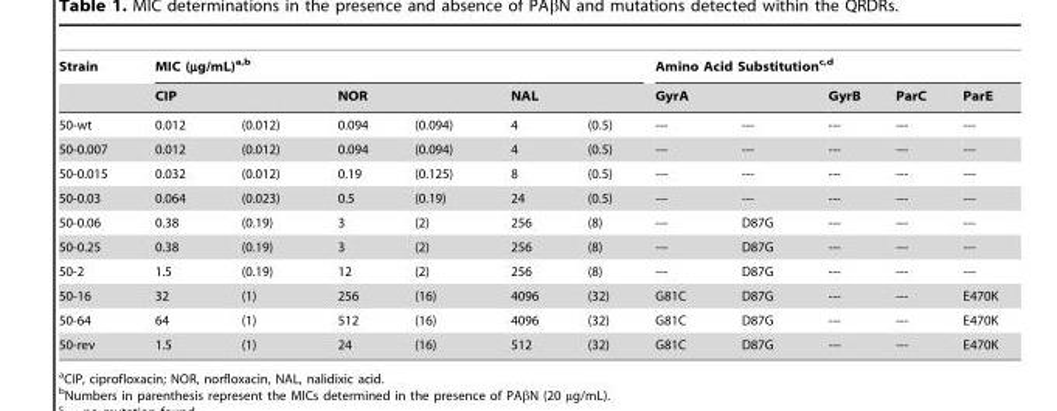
<table><thead><tr><td rowspan="3">Strain 50-wt</td><td colspan="6">MIC (µg/mL)a,b</td><td colspan="5">Amino Acid Substitutionc,d</td></tr><tr><td colspan="2">CIP</td><td colspan="2">NOR</td><td colspan="2">NAL</td><td colspan="2">GyrA</td><td rowspan="2">GyrB ---</td><td rowspan="2">ParC ---</td><td rowspan="2">ParE ---</td></tr><tr><td>0.012</td><td>(0.012)</td><td>0.094</td><td>(0.094)</td><td>4</td><td>(0.5)</td><td>---</td><td>---</td></tr></thead><tbody><tr><td>50-0.007</td><td>0.012</td><td>(0.012)</td><td>0.094</td><td>(0.094)</td><td>4</td><td>(0.5)</td><td>---</td><td>---</td><td>---</td><td>---</td><td>---</td></tr><tr><td>50-0.015</td><td>0.032</td><td>(0.012)</td><td>0.19</td><td>(0.125)</td><td>8</td><td>(0.5)</td><td>---</td><td>---</td><td>---</td><td>---</td><td>---</td></tr><tr><td>50-0.03</td><td>0.064</td><td>(0.023)</td><td>0.5</td><td>(0.19)</td><td>24</td><td>(0.5)</td><td>---</td><td>---</td><td>---</td><td>---</td><td>---</td></tr><tr><td>50-0.06</td><td>0.38</td><td>(0.19)</td><td>3</td><td>(2)</td><td>256</td><td>(8)</td><td>---</td><td>D87G</td><td>---</td><td>---</td><td>---</td></tr><tr><td>50-0.25</td><td>0.38</td><td>(0.19)</td><td>3</td><td>(2)</td><td>256</td><td>(8)</td><td>---</td><td>D87G</td><td>---</td><td>---</td><td>---</td></tr><tr><td>50-2</td><td>1.5</td><td>(0.19)</td><td>12</td><td>(2)</td><td>256</td><td>(8)</td><td>---</td><td>D87G</td><td>---</td><td>---</td><td>---</td></tr><tr><td>50-16</td><td>32</td><td>(1)</td><td>256</td><td>(16)</td><td>4096</td><td>(32)</td><td>G81C</td><td>D87G</td><td>---</td><td>---</td><td>E470K</td></tr><tr><td>50-64</td><td>64</td><td>(1)</td><td>512</td><td>(16)</td><td>4096</td><td>(32)</td><td>G81C</td><td>D87G</td><td>---</td><td>---</td><td>E470K</td></tr><tr><td>50-rev</td><td>1.5</td><td>(1)</td><td>24</td><td>(16)</td><td>512</td><td>(32)</td><td>G81C</td><td>D87G</td><td>---</td><td>---</td><td>E470K</td></tr></tbody></table>